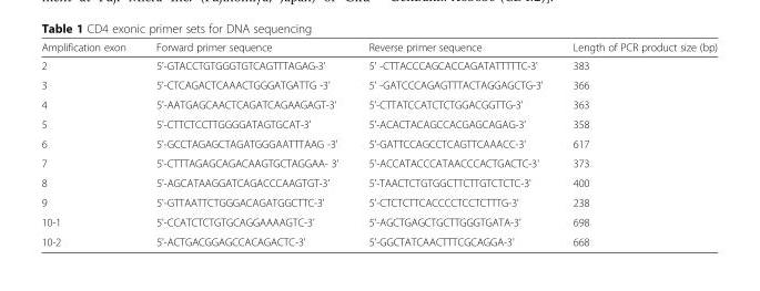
<table><thead><tr><td>Amplification exon</td><td>Forward primer sequence</td><td>Reverse primer sequence</td><td>Length of PCR product size (bp)</td></tr></thead><tbody><tr><td>2</td><td>5&#x27;-GTACCTGTGGGTGTCAGTTTAGAG-3&#x27;</td><td>5&#x27; -CTTACCCAGCACCAGATATTTTTC-3&#x27;</td><td>383</td></tr><tr><td>3</td><td>5&#x27;-CTCAGACTCAAACTGGGATGATTG -3&#x27;</td><td>5&#x27; -GATCCCAGAGTTTACTAGGAGCTG-3&#x27;</td><td>366</td></tr><tr><td>4</td><td>5&#x27;-AATGAGCAACTCAGATCAGAAGAGT-3&#x27;</td><td>5&#x27;-CTTATCCATCTCTGGACGGTTG-3&#x27;</td><td>363</td></tr><tr><td>5</td><td>5&#x27;-CTTCTCCTTGGGGATAGTGCAT-3&#x27;</td><td>5&#x27;-ACACTACAGCCACGAGCAGAG-3&#x27;</td><td>358</td></tr><tr><td>6</td><td>5&#x27;-GCCTAGAGCTAGATGGGAATTTAAG -3&#x27;</td><td>5&#x27;-GATTCCAGCCTCAGTTCAAACC-3&#x27;</td><td>617</td></tr><tr><td>7</td><td>5&#x27;-CTTTAGAGCAGACAAGTGCTAGGAA- 3&#x27;</td><td>5&#x27;-ACCATACCCATAACCCACTGACTC-3&#x27;</td><td>373</td></tr><tr><td>8</td><td>5&#x27;-AGCATAAGGATCAGACCCAAGTGT-3&#x27;</td><td>5&#x27;-TAACTCTGTGGCTTCTTGTCTCTC-3&#x27;</td><td>400</td></tr><tr><td>9</td><td>5&#x27;-GTTAATTCTGGGACAGATGGCTTC-3&#x27;</td><td>5&#x27;-CTCTCTTCACCCCTCCTCTTTG-3&#x27;</td><td>238</td></tr><tr><td>10-1</td><td>5&#x27;-CCATCTCTGTGCAGGAAAAGTC-3&#x27;</td><td>5&#x27;-AGCTGAGCTGCTTGGGTGATA-3&#x27;</td><td>698</td></tr><tr><td>10-2</td><td>5&#x27;-ACTGACGGAGCCACAGACTC-3&#x27;</td><td>5&#x27;-GGCTATCAACTTTCGCAGGA-3&#x27;</td><td>668</td></tr></tbody></table>